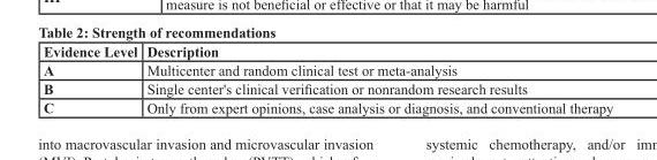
<table><thead><tr><td>Evidence Level</td><td>Description</td></tr></thead><tbody><tr><td>A</td><td>Multicenter and random clinical test or meta-analysis</td></tr><tr><td>B</td><td>Single center&#x27;s clinical verification or nonrandom research results</td></tr><tr><td>C</td><td>Only from expert opinions, case analysis or diagnosis, and conventional therapy</td></tr></tbody></table>